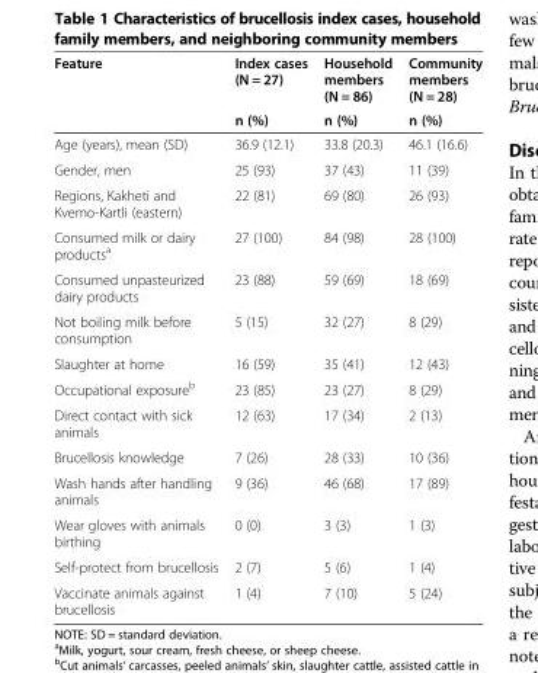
<table><thead><tr><td rowspan="2">Feature</td><td rowspan="2">Index cases (N = 27) n (%)</td><td rowspan="2">Household members (N = 86) n (%)</td><td rowspan="2">Community members (N = 28) n (%)</td></tr><tr></tr></thead><tbody><tr><td>Age (years), mean (SD)</td><td>36.9 (12.1)</td><td>33.8 (20.3)</td><td>46.1 (16.6)</td></tr><tr><td>Gender, men</td><td>25 (93)</td><td>37 (43)</td><td>11 (39)</td></tr><tr><td>Regions, Kakheti and Kvemo-Kartli (eastern)</td><td>22 (81)</td><td>69 (80)</td><td>26 (93)</td></tr><tr><td>Consumed milk or dairy products<sup>a</sup></td><td>27 (100)</td><td>84 (98)</td><td>28 (100)</td></tr><tr><td>Consumed unpasteurized dairy products</td><td>23 (88)</td><td>59 (69)</td><td>18 (69)</td></tr><tr><td>Not boiling milk before consumption</td><td>5 (15)</td><td>32 (27)</td><td>8 (29)</td></tr><tr><td>Slaughter at home</td><td>16 (59)</td><td>35 (41)</td><td>12 (43)</td></tr><tr><td>Occupational exposure<sup>b</sup></td><td>23 (85)</td><td>23 (27)</td><td>8 (29)</td></tr><tr><td>Direct contact with sick animals</td><td>12 (63)</td><td>17 (34)</td><td>2 (13)</td></tr><tr><td>Brucellosis knowledge</td><td>7 (26)</td><td>28 (33)</td><td>10 (36)</td></tr><tr><td>Wash hands after handling animals</td><td>9 (36)</td><td>46 (68)</td><td>17 (89)</td></tr><tr><td>Wear gloves with animals birthing</td><td>0 (0)</td><td>3 (3)</td><td>1 (3)</td></tr><tr><td>Self-protect from brucellosis</td><td>2 (7)</td><td>5 (6)</td><td>1 (4)</td></tr><tr><td>Vaccinate animals against brucellosis</td><td>1 (4)</td><td>7 (10)</td><td>5 (24)</td></tr></tbody></table>